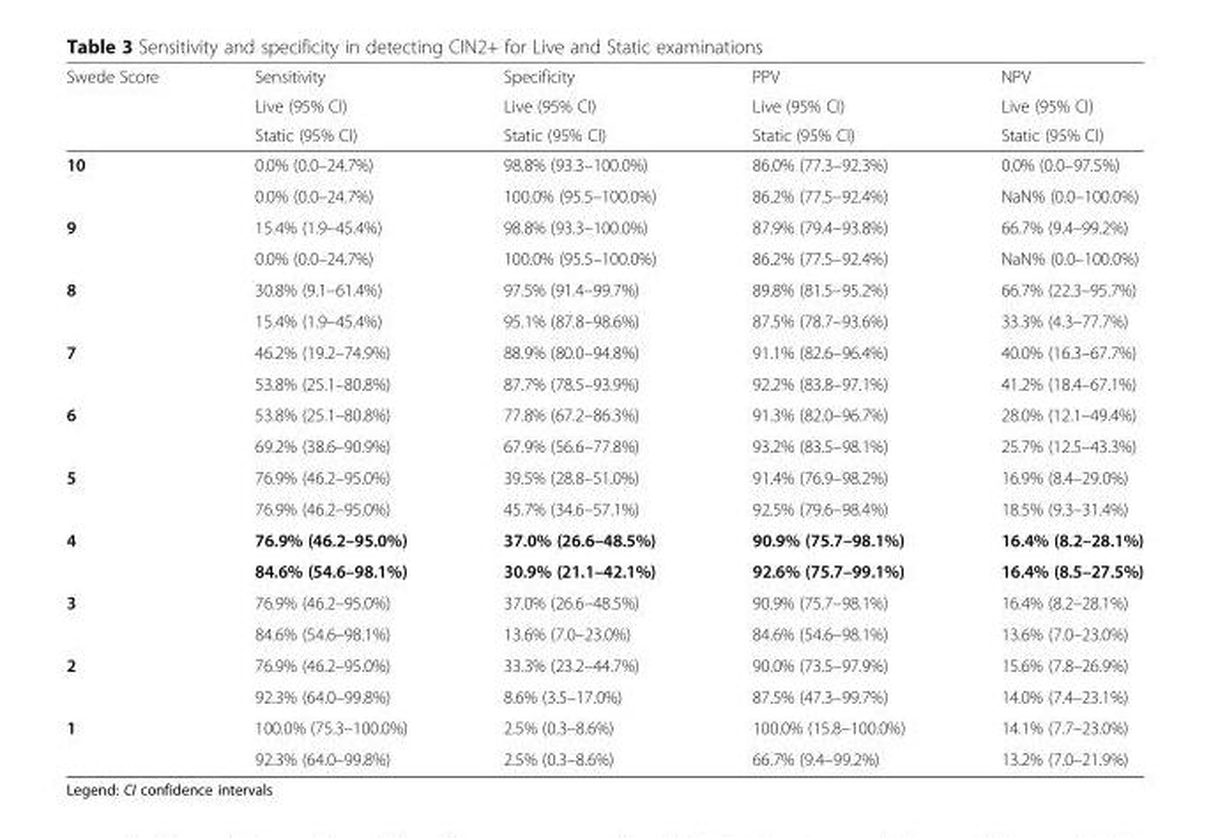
<table><thead><tr><td rowspan="3">Swede Score</td><td rowspan="3">Sensitivity Live (95% CI) Static (95% CI)</td><td rowspan="3">Specificity Live (95% CI) Static (95% CI)</td><td rowspan="3">PPV Live (95% CI) Static (95% CI)</td><td rowspan="3">NPV Live (95% CI) Static (95% CI)</td></tr><tr></tr><tr></tr></thead><tbody><tr><td rowspan="2">10</td><td>0.0% (0.0–24.7%)</td><td>98.8% (93.3–100.0%)</td><td>86.0% (77.3–92.3%)</td><td>0.0% (0.0–97.5%)</td></tr><tr><td>0.0% (0.0–24.7%)</td><td>100.0% (95.5–100.0%)</td><td>86.2% (77.5–92.4%)</td><td>NaN% (0.0–100.0%)</td></tr><tr><td rowspan="2">9</td><td>15.4% (1.9–45.4%)</td><td>98.8% (93.3–100.0%)</td><td>87.9% (79.4–93.8%)</td><td>66.7% (9.4–99.2%)</td></tr><tr><td>0.0% (0.0–24.7%)</td><td>100.0% (95.5–100.0%)</td><td>86.2% (77.5–92.4%)</td><td>NaN% (0.0–100.0%)</td></tr><tr><td rowspan="2">8</td><td>30.8% (9.1–61.4%)</td><td>97.5% (91.4–99.7%)</td><td>89.8% (81.5–95.2%)</td><td>66.7% (22.3–95.7%)</td></tr><tr><td>15.4% (1.9–45.4%)</td><td>95.1% (87.8–98.6%)</td><td>87.5% (78.7–93.6%)</td><td>33.3% (4.3–77.7%)</td></tr><tr><td rowspan="2">7</td><td>46.2% (19.2–74.9%)</td><td>88.9% (80.0–94.8%)</td><td>91.1% (82.6–96.4%)</td><td>40.0% (16.3–67.7%)</td></tr><tr><td>53.8% (25.1–80.8%)</td><td>87.7% (78.5–93.9%)</td><td>92.2% (83.8–97.1%)</td><td>41.2% (18.4–67.1%)</td></tr><tr><td rowspan="2">6</td><td>53.8% (25.1–80.8%)</td><td>77.8% (67.2–86.3%)</td><td>91.3% (82.0–96.7%)</td><td>28.0% (12.1–49.4%)</td></tr><tr><td>69.2% (38.6–90.9%)</td><td>67.9% (56.6–77.8%)</td><td>93.2% (83.5–98.1%)</td><td>25.7% (12.5–43.3%)</td></tr><tr><td rowspan="2">5</td><td>76.9% (46.2–95.0%)</td><td>39.5% (28.8–51.0%)</td><td>91.4% (76.9–98.2%)</td><td>16.9% (8.4–29.0%)</td></tr><tr><td>76.9% (46.2–95.0%)</td><td>45.7% (34.6–57.1%)</td><td>92.5% (79.6–98.4%)</td><td>18.5% (9.3–31.4%)</td></tr><tr><td rowspan="2">4</td><td>76.9% (46.2–95.0%)</td><td>37.0% (26.6–48.5%)</td><td>90.9% (75.7–98.1%)</td><td>16.4% (8.2–28.1%)</td></tr><tr><td>84.6% (54.6–98.1%)</td><td>30.9% (21.1–42.1%)</td><td>92.6% (75.7–99.1%)</td><td>16.4% (8.5–27.5%)</td></tr><tr><td rowspan="2">3</td><td>76.9% (46.2–95.0%)</td><td>37.0% (26.6–48.5%)</td><td>90.9% (75.7–98.1%)</td><td>16.4% (8.2–28.1%)</td></tr><tr><td>84.6% (54.6–98.1%)</td><td>13.6% (7.0–23.0%)</td><td>84.6% (54.6–98.1%)</td><td>13.6% (7.0–23.0%)</td></tr><tr><td rowspan="2">2</td><td>76.9% (46.2–95.0%)</td><td>33.3% (23.2–44.7%)</td><td>90.0% (73.5–97.9%)</td><td>15.6% (7.8–26.9%)</td></tr><tr><td>92.3% (64.0–99.8%)</td><td>8.6% (3.5–17.0%)</td><td>87.5% (47.3–99.7%)</td><td>14.0% (7.4–23.1%)</td></tr><tr><td rowspan="2">1</td><td>100.0% (75.3–100.0%)</td><td>2.5% (0.3–8.6%)</td><td>100.0% (15.8–100.0%)</td><td>14.1% (7.7–23.0%)</td></tr><tr><td>92.3% (64.0–99.8%)</td><td>2.5% (0.3–8.6%)</td><td>66.7% (9.4–99.2%)</td><td>13.2% (7.0–21.9%)</td></tr></tbody></table>